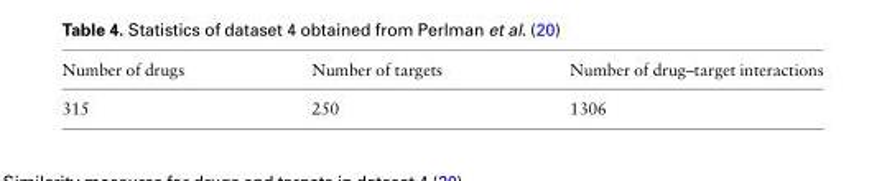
<table><thead><tr><td>Number of drugs</td><td>Number of targets</td><td>Number of drug–target interactions</td></tr></thead><tbody><tr><td>315</td><td>250</td><td>1306</td></tr></tbody></table>